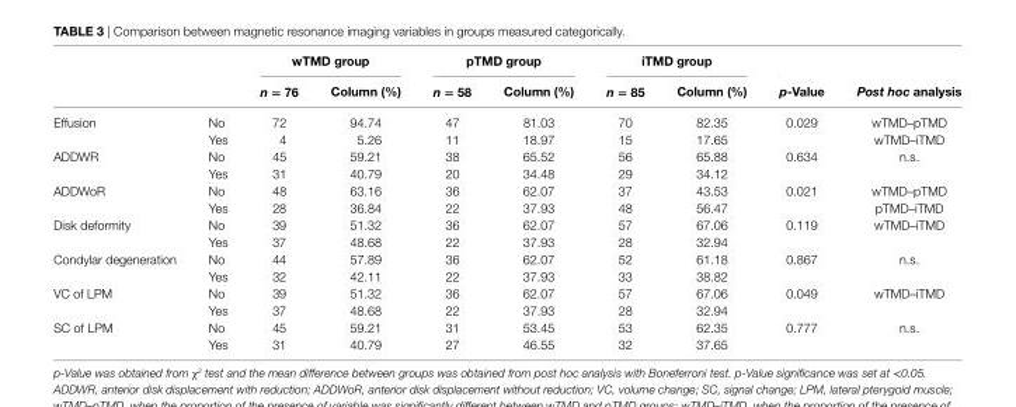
<table><thead><tr><td rowspan="2"></td><td rowspan="2"></td><td colspan="2">wTMD group</td><td colspan="2">pTMD group</td><td colspan="2">iTMD group</td><td rowspan="2">p-Value</td><td rowspan="2">Post hoc analysis</td></tr><tr><td>n = 76</td><td>column (%)</td><td>n = 58</td><td>column (%)</td><td>n = 85</td><td>column (%)</td></tr></thead><tbody><tr><td rowspan="2">Effusion</td><td>No</td><td>72</td><td>94.74</td><td>47</td><td>81.03</td><td>70</td><td>82.35</td><td>0.029</td><td>wTMD–pTMD</td></tr><tr><td>Yes</td><td>4</td><td>5.26</td><td>11</td><td>18.97</td><td>15</td><td>17.65</td><td></td><td>wTMD–iTMD</td></tr><tr><td rowspan="2">ADDWR</td><td>No</td><td>45</td><td>59.21</td><td>38</td><td>65.52</td><td>56</td><td>65.88</td><td>0.634</td><td>n.s.</td></tr><tr><td>Yes</td><td>31</td><td>40.79</td><td>20</td><td>34.48</td><td>29</td><td>34.12</td><td></td><td></td></tr><tr><td rowspan="2">ADDWoR</td><td>No</td><td>48</td><td>63.16</td><td>36</td><td>62.07</td><td>37</td><td>43.53</td><td>0.021</td><td>wTMD–pTMD</td></tr><tr><td>Yes</td><td>28</td><td>36.84</td><td>22</td><td>37.93</td><td>48</td><td>56.47</td><td></td><td>pTMD–iTMD</td></tr><tr><td rowspan="2">Disk deformity</td><td>No</td><td>39</td><td>51.32</td><td>36</td><td>62.07</td><td>57</td><td>67.06</td><td>0.119</td><td>wTMD–iTMD</td></tr><tr><td>Yes</td><td>37</td><td>48.68</td><td>22</td><td>37.93</td><td>28</td><td>32.94</td><td></td><td></td></tr><tr><td rowspan="2">Condylar degeneration</td><td>No</td><td>44</td><td>57.89</td><td>36</td><td>62.07</td><td>52</td><td>61.18</td><td>0.867</td><td>n.s.</td></tr><tr><td>Yes</td><td>32</td><td>42.11</td><td>22</td><td>37.93</td><td>33</td><td>38.82</td><td></td><td></td></tr><tr><td rowspan="2">VC of LPM</td><td>No</td><td>39</td><td>51.32</td><td>36</td><td>62.07</td><td>57</td><td>67.06</td><td>0.049</td><td>wTMD–iTMD</td></tr><tr><td>Yes</td><td>37</td><td>48.68</td><td>22</td><td>37.93</td><td>28</td><td>32.94</td><td></td><td></td></tr><tr><td rowspan="2">SC of LPM</td><td>No</td><td>45</td><td>59.21</td><td>31</td><td>53.45</td><td>53</td><td>62.35</td><td>0.777</td><td>n.s.</td></tr><tr><td>Yes</td><td>31</td><td>40.79</td><td>27</td><td>46.55</td><td>32</td><td>37.65</td><td></td><td></td></tr></tbody></table>